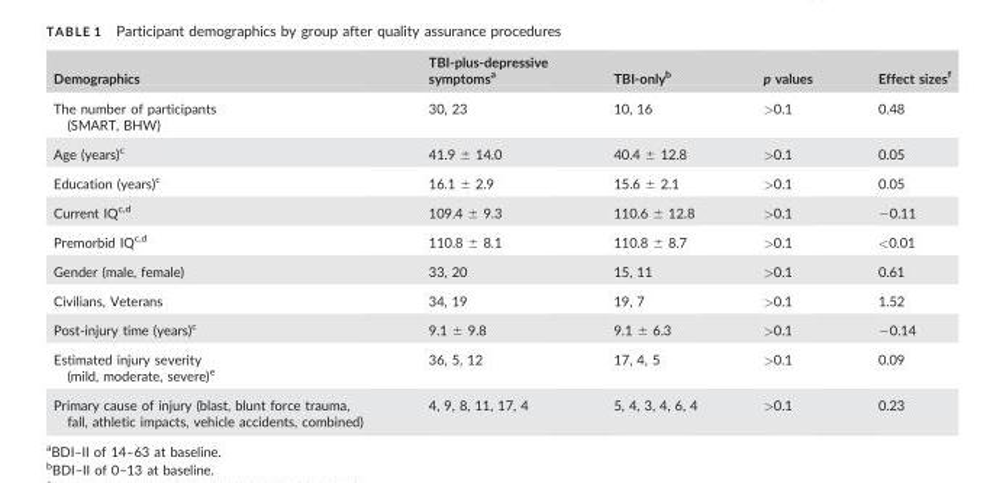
<table><thead><tr><td>Demographics</td><td>TBI-plus-depressive symptoms<sup>a</sup></td><td>TBI-only<sup>b</sup></td><td>p values</td><td>Effect sizes<sup>f</sup></td></tr></thead><tbody><tr><td>The number of participants (SMART, BHW)</td><td>30, 23</td><td>10, 16</td><td>&gt;0.1</td><td>0.48</td></tr><tr><td>Age (years)<sup>c</sup></td><td>41.9 ± 14.0</td><td>40.4 ± 12.8</td><td>&gt;0.1</td><td>0.05</td></tr><tr><td>Education (years)<sup>c</sup></td><td>16.1 ± 2.9</td><td>15.6 ± 2.1</td><td>&gt;0.1</td><td>0.05</td></tr><tr><td>Current IQ<sup>c,d</sup></td><td>109.4 ± 9.3</td><td>110.6 ± 12.8</td><td>&gt;0.1</td><td>−0.11</td></tr><tr><td>Premorbid IQ<sup>c</sup>,<sup>d</sup></td><td>110.8 ± 8.1</td><td>110.8 ± 8.7</td><td>&gt;0.1</td><td>&lt;0.01</td></tr><tr><td>Gender (male, female)</td><td>33, 20</td><td>15, 11</td><td>&gt;0.1</td><td>0.61</td></tr><tr><td>Civilians, Veterans</td><td>34, 19</td><td>19, 7</td><td>&gt;0.1</td><td>1.52</td></tr><tr><td>Post-injury time (years)<sup>c</sup></td><td>9.1 ± 9.8</td><td>9.1 ± 6.3</td><td>&gt;0.1</td><td>−0.14</td></tr><tr><td>Estimated injury severity (mild, moderate, severe)<sup>e</sup></td><td>36, 5, 12</td><td>17, 4, 5</td><td>&gt;0.1</td><td>0.09</td></tr><tr><td>Primary cause of injury (blast, blunt force trauma, fall, athletic impacts, vehicle accidents, combined)</td><td>4, 9, 8, 11, 17, 4</td><td>5, 4, 3, 4, 6, 4</td><td>&gt;0.1</td><td>0.23</td></tr></tbody></table>